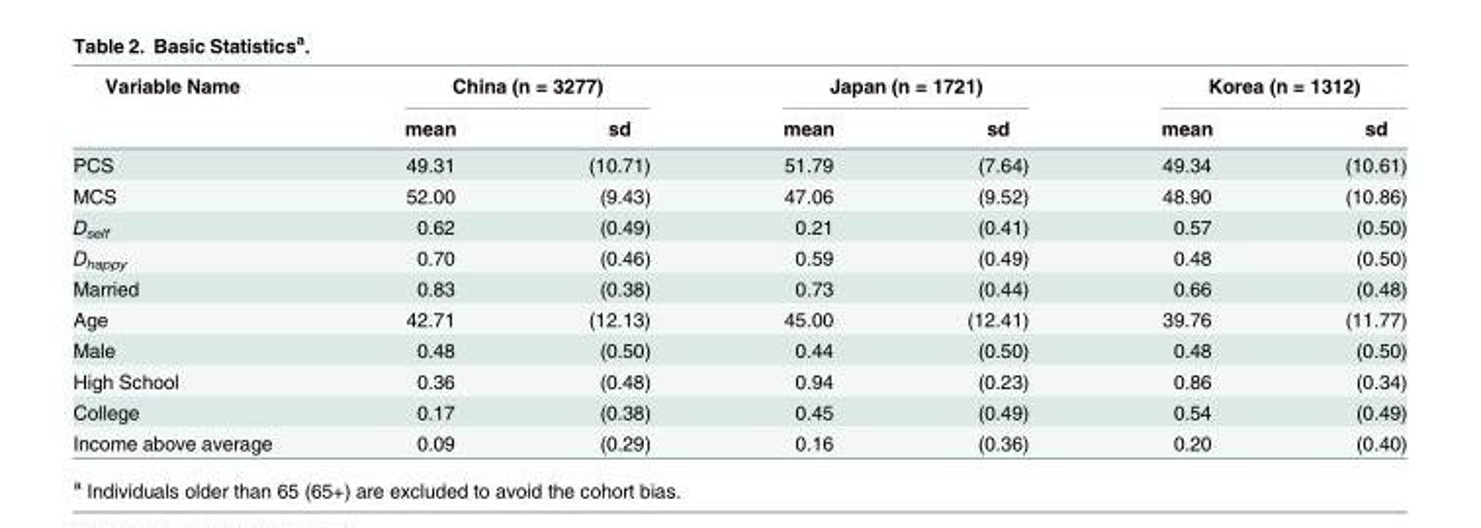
<table><thead><tr><td rowspan="2">Variable Name</td><td colspan="2">China (n = 3277)</td><td colspan="2">Japan (n = 1721)</td><td colspan="2">Korea (n = 1312)</td></tr><tr><td>mean</td><td>sd</td><td>mean</td><td>sd</td><td>mean</td><td>sd</td></tr></thead><tbody><tr><td>PCS</td><td>49.31</td><td>(10.71)</td><td>51.79</td><td>(7.64)</td><td>49.34</td><td>(10.61)</td></tr><tr><td>MCS</td><td>52.00</td><td>(9.43)</td><td>47.06</td><td>(9.52)</td><td>48.90</td><td>(10.86)</td></tr><tr><td>D<sub>self</sub></td><td>0.62</td><td>(0.49)</td><td>0.21</td><td>(0.41)</td><td>0.57</td><td>(0.50)</td></tr><tr><td>D<sub>happy</sub></td><td>0.70</td><td>(0.46)</td><td>0.59</td><td>(0.49)</td><td>0.48</td><td>(0.50)</td></tr><tr><td>Married</td><td>0.83</td><td>(0.38)</td><td>0.73</td><td>(0.44)</td><td>0.66</td><td>(0.48)</td></tr><tr><td>Age</td><td>42.71</td><td>(12.13)</td><td>45.00</td><td>(12.41)</td><td>39.76</td><td>(11.77)</td></tr><tr><td>Male</td><td>0.48</td><td>(0.50)</td><td>0.44</td><td>(0.50)</td><td>0.48</td><td>(0.50)</td></tr><tr><td>High School</td><td>0.36</td><td>(0.48)</td><td>0.94</td><td>(0.23)</td><td>0.86</td><td>(0.34)</td></tr><tr><td>College</td><td>0.17</td><td>(0.38)</td><td>0.45</td><td>(0.49)</td><td>0.54</td><td>(0.49)</td></tr><tr><td>Income above average</td><td>0.09</td><td>(0.29)</td><td>0.16</td><td>(0.36)</td><td>0.20</td><td>(0.40)</td></tr></tbody></table>